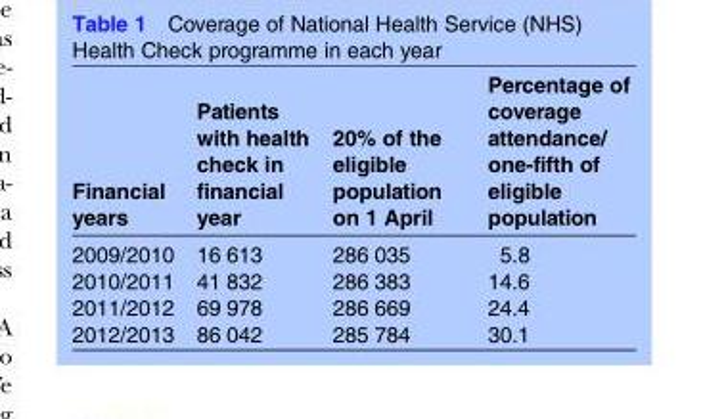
<table><thead><tr><td>Financial years</td><td>Patients with health check in financial year</td><td>20% of the eligible population on 1 April</td><td>Percentage of coverage attendance/ one-fifth of eligible population</td></tr></thead><tbody><tr><td>2009/2010</td><td>16 613</td><td>286 035</td><td>5.8</td></tr><tr><td>2010/2011</td><td>41 832</td><td>286 383</td><td>14.6</td></tr><tr><td>2011/2012</td><td>69 978</td><td>286 669</td><td>24.4</td></tr><tr><td>2012/2013</td><td>86 042</td><td>285 784</td><td>30.1</td></tr></tbody></table>